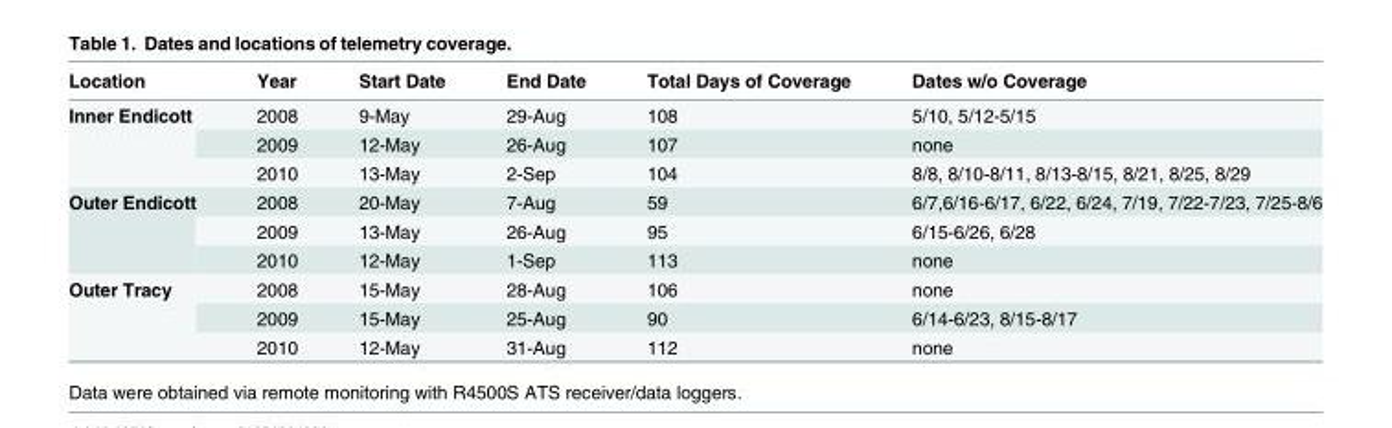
<table><thead><tr><td>Location</td><td>Year</td><td>Start Date</td><td>End Date</td><td>Total Days of Coverage</td><td>Dates w/o Coverage</td></tr></thead><tbody><tr><td rowspan="3">Inner Endicott</td><td>2008</td><td>9-May</td><td>29-Aug</td><td>108</td><td>5/10, 5/12-5/15</td></tr><tr><td>2009</td><td>12-May</td><td>26-Aug</td><td>107</td><td>none</td></tr><tr><td>2010</td><td>13-May</td><td>2-Sep</td><td>104</td><td>8/8, 8/10-8/11, 8/13-8/15, 8/21, 8/25, 8/29</td></tr><tr><td rowspan="3">Outer Endicott</td><td>2008</td><td>20-May</td><td>7-Aug</td><td>59</td><td>6/7,6/16-6/17, 6/22, 6/24, 7/19, 7/22-7/23, 7/25-8/6</td></tr><tr><td>2009</td><td>13-May</td><td>26-Aug</td><td>95</td><td>6/15-6/26, 6/28</td></tr><tr><td>2010</td><td>12-May</td><td>1-Sep</td><td>113</td><td>none</td></tr><tr><td rowspan="3">Outer Tracy</td><td>2008</td><td>15-May</td><td>28-Aug</td><td>106</td><td>none</td></tr><tr><td>2009</td><td>15-May</td><td>25-Aug</td><td>90</td><td>6/14-6/23, 8/15-8/17</td></tr><tr><td>2010</td><td>12-May</td><td>31-Aug</td><td>112</td><td>none</td></tr></tbody></table>